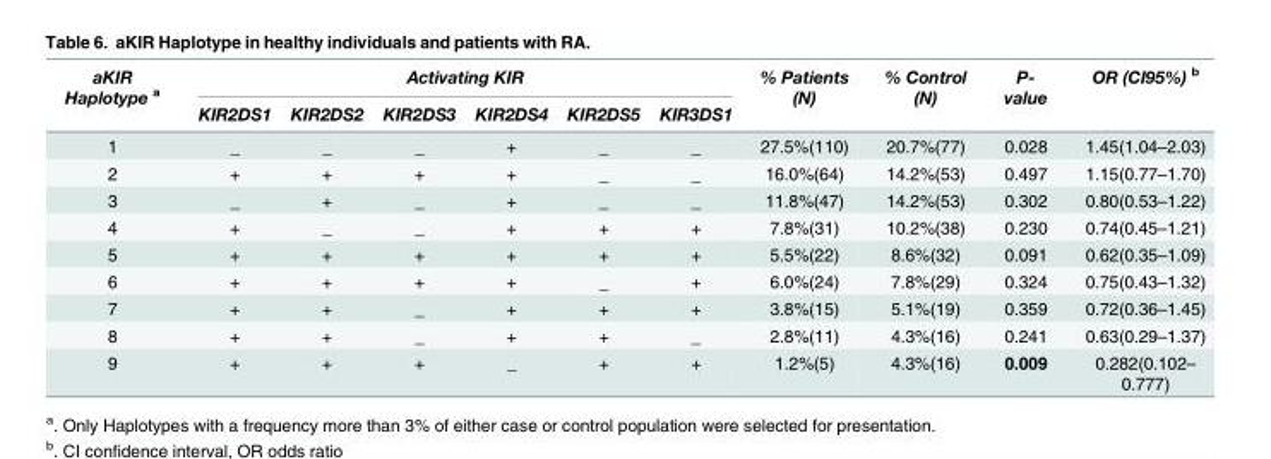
<table><thead><tr><td rowspan="2">aKIR Haplotype <sup>a</sup></td><td colspan="6">Activating KIR</td><td rowspan="2">% Patients (N)</td><td rowspan="2">% Control (N)</td><td rowspan="2">P- value</td><td rowspan="2">OR (CI95%) <sup>b</sup></td></tr><tr><td>KIR2DS1</td><td>KIR2DS2</td><td>KIR2DS3</td><td>KIR2DS4</td><td>KIR2DS5</td><td>KIR3DS1</td></tr></thead><tbody><tr><td>1</td><td>_</td><td>_</td><td>_</td><td>+</td><td>_</td><td>_</td><td>27.5%(110)</td><td>20.7%(77)</td><td>0.028</td><td>1.45(1.04–2.03)</td></tr><tr><td>2</td><td>+</td><td>+</td><td>+</td><td>+</td><td>_</td><td>_</td><td>16.0%(64)</td><td>14.2%(53)</td><td>0.497</td><td>1.15(0.77–1.70)</td></tr><tr><td>3</td><td>_</td><td>+</td><td>_</td><td>+</td><td>_</td><td>_</td><td>11.8%(47)</td><td>14.2%(53)</td><td>0.302</td><td>0.80(0.53–1.22)</td></tr><tr><td>4</td><td>+</td><td>_</td><td>_</td><td>+</td><td>+</td><td>+</td><td>7.8%(31)</td><td>10.2%(38)</td><td>0.230</td><td>0.74(0.45–1.21)</td></tr><tr><td>5</td><td>+</td><td>+</td><td>+</td><td>+</td><td>+</td><td>+</td><td>5.5%(22)</td><td>8.6%(32)</td><td>0.091</td><td>0.62(0.35–1.09)</td></tr><tr><td>6</td><td>+</td><td>+</td><td>+</td><td>+</td><td>_</td><td>+</td><td>6.0%(24)</td><td>7.8%(29)</td><td>0.324</td><td>0.75(0.43–1.32)</td></tr><tr><td>7</td><td>+</td><td>+</td><td>_</td><td>+</td><td>+</td><td>+</td><td>3.8%(15)</td><td>5.1%(19)</td><td>0.359</td><td>0.72(0.36–1.45)</td></tr><tr><td>8</td><td>+</td><td>+</td><td>_</td><td>+</td><td>+</td><td>_</td><td>2.8%(11)</td><td>4.3%(16)</td><td>0.241</td><td>0.63(0.29–1.37)</td></tr><tr><td>9</td><td>+</td><td>+</td><td>+</td><td>_</td><td>+</td><td>+</td><td>1.2%(5)</td><td>4.3%(16)</td><td>0.009</td><td>0.282(0.102– 0.777)</td></tr></tbody></table>